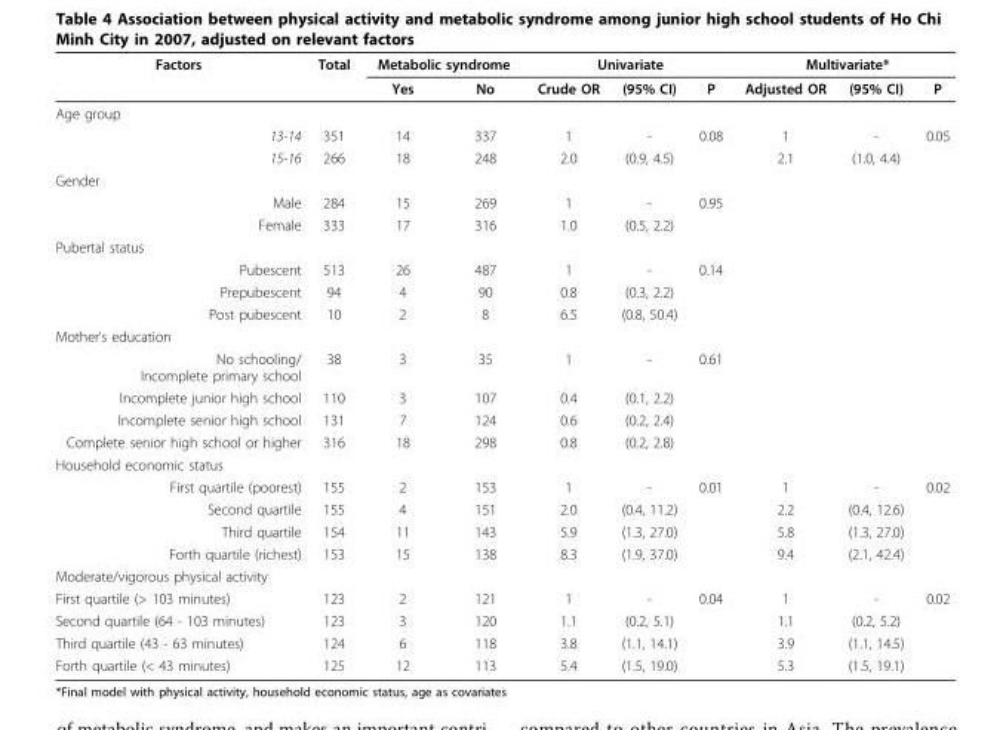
<table><thead><tr><td rowspan="2">Factors</td><td rowspan="2">Total</td><td colspan="2">Metabolic syndrome</td><td colspan="3">Univariate</td><td colspan="3">Multivariate*</td></tr><tr><td>Yes</td><td>No</td><td>Crude OR</td><td>(95% CI)</td><td>P</td><td>Adjusted OR</td><td>(95% CI)</td><td>P</td></tr></thead><tbody><tr><td colspan="10">Age group</td></tr><tr><td>13-14</td><td>351</td><td>14</td><td>337</td><td>1</td><td>-</td><td>0.08</td><td>1</td><td>-</td><td>0.05</td></tr><tr><td>15-16</td><td>266</td><td>18</td><td>248</td><td>2.0</td><td>(0.9, 4.5)</td><td></td><td>2.1</td><td>(1.0, 4.4)</td><td></td></tr><tr><td colspan="10">Gender</td></tr><tr><td>Male</td><td>284</td><td>15</td><td>269</td><td>1</td><td>-</td><td>0.95</td><td></td><td></td><td></td></tr><tr><td>Female</td><td>333</td><td>17</td><td>316</td><td>1.0</td><td>(0.5, 2.2)</td><td></td><td></td><td></td><td></td></tr><tr><td colspan="10">Pubertal status</td></tr><tr><td>Pubescent</td><td>513</td><td>26</td><td>487</td><td>1</td><td>-</td><td>0.14</td><td></td><td></td><td></td></tr><tr><td>Prepubescent</td><td>94</td><td>4</td><td>90</td><td>0.8</td><td>(0.3, 2.2)</td><td></td><td></td><td></td><td></td></tr><tr><td>Post pubescent</td><td>10</td><td>2</td><td>8</td><td>6.5</td><td>(0.8, 50.4)</td><td></td><td></td><td></td><td></td></tr><tr><td colspan="10">Mother’s education</td></tr><tr><td>No schooling/ Incomplete primary school</td><td>38</td><td>3</td><td>35</td><td>1</td><td>-</td><td>0.61</td><td></td><td></td><td></td></tr><tr><td>Incomplete junior high school</td><td>110</td><td>3</td><td>107</td><td>0.4</td><td>(0.1, 2.2)</td><td></td><td></td><td></td><td></td></tr><tr><td>Incomplete senior high school</td><td>131</td><td>7</td><td>124</td><td>0.6</td><td>(0.2, 2.4)</td><td></td><td></td><td></td><td></td></tr><tr><td>Complete senior high school or higher</td><td>316</td><td>18</td><td>298</td><td>0.8</td><td>(0.2, 2.8)</td><td></td><td></td><td></td><td></td></tr><tr><td colspan="10">Household economic status</td></tr><tr><td>First quartile (poorest)</td><td>155</td><td>2</td><td>153</td><td>1</td><td>-</td><td>0.01</td><td>1</td><td>-</td><td>0.02</td></tr><tr><td>Second quartile</td><td>155</td><td>4</td><td>151</td><td>2.0</td><td>(0.4, 11.2)</td><td></td><td>2.2</td><td>(0.4, 12.6)</td><td></td></tr><tr><td>Third quartile</td><td>154</td><td>11</td><td>143</td><td>5.9</td><td>(1.3, 27.0)</td><td></td><td>5.8</td><td>(1.3, 27.0)</td><td></td></tr><tr><td>Forth quartile (richest)</td><td>153</td><td>15</td><td>138</td><td>8.3</td><td>(1.9, 37.0)</td><td></td><td>9.4</td><td>(2.1, 42.4)</td><td></td></tr><tr><td colspan="10">Moderate/vigorous physical activity</td></tr><tr><td>First quartile (&gt; 103 minutes)</td><td>123</td><td>2</td><td>121</td><td>1</td><td>-</td><td>0.04</td><td>1</td><td>-</td><td>0.02</td></tr><tr><td>Second quartile (64 - 103 minutes)</td><td>123</td><td>3</td><td>120</td><td>1.1</td><td>(0.2, 5.1)</td><td></td><td>1.1</td><td>(0.2, 5.2)</td><td></td></tr><tr><td>Third quartile (43 - 63 minutes)</td><td>124</td><td>6</td><td>118</td><td>3.8</td><td>(1.1, 14.1)</td><td></td><td>3.9</td><td>(1.1, 14.5)</td><td></td></tr><tr><td>Forth quartile (&lt; 43 minutes)</td><td>125</td><td>12</td><td>113</td><td>5.4</td><td>(1.5, 19.0)</td><td></td><td>5.3</td><td>(1.5, 19.1)</td><td></td></tr></tbody></table>